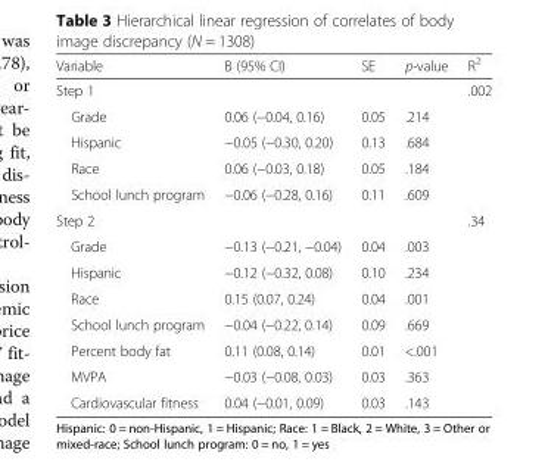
<table><thead><tr><td>Variable</td><td>B (95% CI)</td><td>SE</td><td>p-value</td><td>R<sup>2</sup></td></tr></thead><tbody><tr><td colspan="4">Step 1</td><td>.002</td></tr><tr><td>Grade</td><td>0.06 (−0.04, 0.16)</td><td>0.05</td><td>.214</td><td></td></tr><tr><td>Hispanic</td><td>−0.05 (−0.30, 0.20)</td><td>0.13</td><td>.684</td><td></td></tr><tr><td>Race</td><td>0.06 (−0.03, 0.18)</td><td>0.05</td><td>.184</td><td></td></tr><tr><td>School lunch program</td><td>−0.06 (−0.28, 0.16)</td><td>0.11</td><td>.609</td><td></td></tr><tr><td colspan="4">Step 2</td><td>.34</td></tr><tr><td>Grade</td><td>−0.13 (−0.21, −0.04)</td><td>0.04</td><td>.003</td><td></td></tr><tr><td>Hispanic</td><td>−0.12 (−0.32, 0.08)</td><td>0.10</td><td>.234</td><td></td></tr><tr><td>Race</td><td>0.15 (0.07, 0.24)</td><td>0.04</td><td>.001</td><td></td></tr><tr><td>School lunch program</td><td>−0.04 (−0.22, 0.14)</td><td>0.09</td><td>.669</td><td></td></tr><tr><td>Percent body fat</td><td>0.11 (0.08, 0.14)</td><td>0.01</td><td>&lt;.001</td><td></td></tr><tr><td>MVPA</td><td>−0.03 (−0.08, 0.03)</td><td>0.03</td><td>.363</td><td></td></tr><tr><td>Cardiovascular fitness</td><td>0.04 (−0.01, 0.09)</td><td>0.03</td><td>.143</td><td></td></tr></tbody></table>